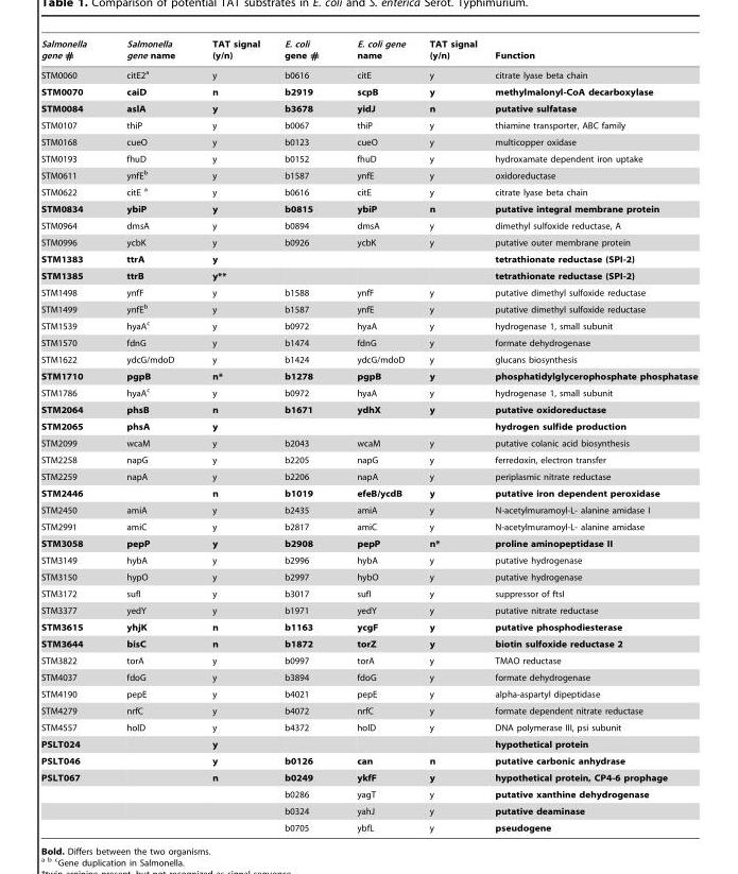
<table><thead><tr><td>Salmonella gene #</td><td>Salmonella gene name</td><td>TAT signal (y/n)</td><td>E. coli gene #</td><td>E. coli gene name</td><td>TAT signal (y/n)</td><td>Function</td></tr></thead><tbody><tr><td>STM0060</td><td>citE2<sup>a</sup></td><td>y</td><td>b0616</td><td>citE</td><td>y</td><td>citrate lyase beta chain</td></tr><tr><td>STM0070</td><td>caiD</td><td>n</td><td>b2919</td><td>scpB</td><td>y</td><td>methylmalonyl-CoA decarboxylase</td></tr><tr><td>STM0084</td><td>aslA</td><td>y</td><td>b3678</td><td>yidJ</td><td>n</td><td>putative sulfatase</td></tr><tr><td>STM0107</td><td>thiP</td><td>y</td><td>b0067</td><td>thiP</td><td>y</td><td>thiamine transporter, ABC family</td></tr><tr><td>STM0168</td><td>cueO</td><td>y</td><td>b0123</td><td>cueO</td><td>y</td><td>multicopper oxidase</td></tr><tr><td>STM0193</td><td>fhuD</td><td>y</td><td>b0152</td><td>fhuD</td><td>y</td><td>hydroxamate dependent iron uptake</td></tr><tr><td>STM0611</td><td>ynfE<sup>b</sup></td><td>y</td><td>b1587</td><td>ynfE</td><td>y</td><td>oxidoreductase</td></tr><tr><td>STM0622</td><td>citE a</td><td>y</td><td>b0616</td><td>citE</td><td>y</td><td>citrate lyase beta chain</td></tr><tr><td>STM0834</td><td>ybiP</td><td>y</td><td>b0815</td><td>ybiP</td><td>n</td><td>putative integral membrane protein</td></tr><tr><td>STM0964</td><td>dmsA</td><td>y</td><td>b0894</td><td>dmsA</td><td>y</td><td>dimethyl sulfoxide reductase, A</td></tr><tr><td>STM0996</td><td>ycbK</td><td>y</td><td>b0926</td><td>ycbK</td><td>y</td><td>putative outer membrane protein</td></tr><tr><td>STM1383</td><td>ttrA</td><td>y</td><td></td><td></td><td></td><td>tetrathionate reductase (SPI-2)</td></tr><tr><td>STM1385</td><td>ttrB</td><td>y**</td><td></td><td></td><td></td><td>tetrathionate reductase (SPI-2)</td></tr><tr><td>STM1498</td><td>ynfF</td><td>y</td><td>b1588</td><td>ynfF</td><td>y</td><td>putative dimethyl sulfoxide reductase</td></tr><tr><td>STM1499</td><td>ynfE<sup>b</sup></td><td>y</td><td>b1587</td><td>ynfE</td><td>y</td><td>putative dimethyl sulfoxide reductase</td></tr><tr><td>STM1539</td><td>hyaA<sup>c</sup></td><td>y</td><td>b0972</td><td>hyaA</td><td>y</td><td>hydrogenase 1, small subunit</td></tr><tr><td>STM1570</td><td>fdnG</td><td>y</td><td>b1474</td><td>fdnG</td><td>y</td><td>formate dehydrogenase</td></tr><tr><td>STM1622</td><td>ydcG/mdoD</td><td>y</td><td>b1424</td><td>ydcG/mdoD</td><td>y</td><td>glucans biosynthesis</td></tr><tr><td>STM1710</td><td>pgpB</td><td>n*</td><td>b1278</td><td>pgpB</td><td>y</td><td>phosphatidylglycerophosphate phosphatase</td></tr><tr><td>STM1786</td><td>hyaA<sup>c</sup></td><td>y</td><td>b0972</td><td>hyaA</td><td>y</td><td>hydrogenase 1, small subunit</td></tr><tr><td>STM2064</td><td>phsB</td><td>n</td><td>b1671</td><td>ydhX</td><td>y</td><td>putative oxidoreductase</td></tr><tr><td>STM2065</td><td>phsA</td><td>y</td><td></td><td></td><td></td><td>hydrogen sulfide production</td></tr><tr><td>STM2099</td><td>wcaM</td><td>y</td><td>b2043</td><td>wcaM</td><td>y</td><td>putative colanic acid biosynthesis</td></tr><tr><td>STM2258</td><td>napG</td><td>y</td><td>b2205</td><td>napG</td><td>y</td><td>ferredoxin, electron transfer</td></tr><tr><td>STM2259</td><td>napA</td><td>y</td><td>b2206</td><td>napA</td><td>y</td><td>periplasmic nitrate reductase</td></tr><tr><td>STM2446</td><td></td><td>n</td><td>b1019</td><td>efeB/ycdB</td><td>y</td><td>putative iron dependent peroxidase</td></tr><tr><td>STM2450</td><td>amiA</td><td>y</td><td>b2435</td><td>amiA</td><td>y</td><td>N-acetylmuramoyl-L- alanine amidase I</td></tr><tr><td>STM2991</td><td>amiC</td><td>y</td><td>b2817</td><td>amiC</td><td>y</td><td>N-acetylmuramoyl-L- alanine amidase</td></tr><tr><td>STM3058</td><td>pepP</td><td>y</td><td>b2908</td><td>pepP</td><td>n*</td><td>proline aminopeptidase II</td></tr><tr><td>STM3149</td><td>hybA</td><td>y</td><td>b2996</td><td>hybA</td><td>y</td><td>putative hydrogenase</td></tr><tr><td>STM3150</td><td>hypO</td><td>y</td><td>b2997</td><td>hybO</td><td>y</td><td>putative hydrogenase</td></tr><tr><td>STM3172</td><td>sufI</td><td>y</td><td>b3017</td><td>sufI</td><td>y</td><td>suppressor of ftsI</td></tr><tr><td>STM3377</td><td>yedY</td><td>y</td><td>b1971</td><td>yedY</td><td>y</td><td>putative nitrate reductase</td></tr><tr><td>STM3615</td><td>yhjK</td><td>n</td><td>b1163</td><td>ycgF</td><td>y</td><td>putative phosphodiesterase</td></tr><tr><td>STM3644</td><td>bisC</td><td>n</td><td>b1872</td><td>torZ</td><td>y</td><td>biotin sulfoxide reductase 2</td></tr><tr><td>STM3822</td><td>torA</td><td>y</td><td>b0997</td><td>torA</td><td>y</td><td>TMAO reductase</td></tr><tr><td>STM4037</td><td>fdoG</td><td>y</td><td>b3894</td><td>fdoG</td><td>y</td><td>formate dehydrogenase</td></tr><tr><td>STM4190</td><td>pepE</td><td>y</td><td>b4021</td><td>pepE</td><td>y</td><td>alpha-aspartyl dipeptidase</td></tr><tr><td>STM4279</td><td>nrfC</td><td>y</td><td>b4072</td><td>nrfC</td><td>y</td><td>formate dependent nitrate reductase</td></tr><tr><td>STM4557</td><td>holD</td><td>y</td><td>b4372</td><td>holD</td><td>y</td><td>DNA polymerase III, psi subunit</td></tr><tr><td>PSLT024</td><td></td><td>y</td><td></td><td></td><td></td><td>hypothetical protein</td></tr><tr><td>PSLT046</td><td></td><td>y</td><td>b0126</td><td>can</td><td>n</td><td>putative carbonic anhydrase</td></tr><tr><td rowspan="4">PSLT067</td><td></td><td>n</td><td>b0249</td><td>ykfF</td><td>y</td><td>hypothetical protein, CP4-6 prophage</td></tr><tr><td></td><td></td><td>b0286</td><td>yagT</td><td>y</td><td>putative xanthine dehydrogenase</td></tr><tr><td></td><td></td><td>b0324</td><td>yahJ</td><td>y</td><td>putative deaminase</td></tr><tr><td></td><td></td><td>b0705</td><td>ybfL</td><td>y</td><td>pseudogene</td></tr></tbody></table>